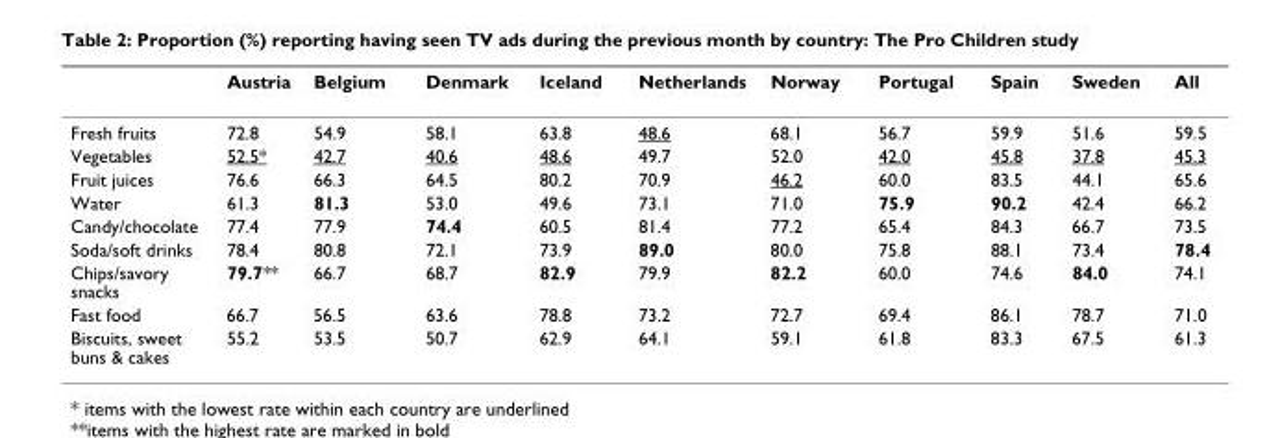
<table><thead><tr><td></td><td>Austria</td><td>Belgium</td><td>Denmark</td><td>Iceland</td><td>Netherlands</td><td>Norway</td><td>Portugal</td><td>Spain</td><td>Sweden</td><td>All</td></tr></thead><tbody><tr><td>Fresh fruits</td><td>72.8</td><td>54.9</td><td>58.1</td><td>63.8</td><td>48.6</td><td>68.1</td><td>56.7</td><td>59.9</td><td>51.6</td><td>59.5</td></tr><tr><td>Vegetables</td><td>52.5*</td><td>42.7</td><td>40.6</td><td>48.6</td><td>49.7</td><td>52.0</td><td>42.0</td><td>45.8</td><td>37.8</td><td>45.3</td></tr><tr><td>Fruit juices</td><td>76.6</td><td>66.3</td><td>64.5</td><td>80.2</td><td>70.9</td><td>46.2</td><td>60.0</td><td>83.5</td><td>44.1</td><td>65.6</td></tr><tr><td>Water</td><td>61.3</td><td>81.3</td><td>53.0</td><td>49.6</td><td>73.1</td><td>71.0</td><td>75.9</td><td>90.2</td><td>42.4</td><td>66.2</td></tr><tr><td>Candy/chocolate</td><td>77.4</td><td>77.9</td><td>74.4</td><td>60.5</td><td>81.4</td><td>77.2</td><td>65.4</td><td>84.3</td><td>66.7</td><td>73.5</td></tr><tr><td>Soda/soft drinks</td><td>78.4</td><td>80.8</td><td>72.1</td><td>73.9</td><td>89.0</td><td>80.0</td><td>75.8</td><td>88.1</td><td>73.4</td><td>78.4</td></tr><tr><td>Chips/savory snacks</td><td>79.7**</td><td>66.7</td><td>68.7</td><td>82.9</td><td>79.9</td><td>82.2</td><td>60.0</td><td>74.6</td><td>84.0</td><td>74.1</td></tr><tr><td>Fast food</td><td>66.7</td><td>56.5</td><td>63.6</td><td>78.8</td><td>73.2</td><td>72.7</td><td>69.4</td><td>86.1</td><td>78.7</td><td>71.0</td></tr><tr><td>Biscuits, sweet buns &amp; cakes</td><td>55.2</td><td>53.5</td><td>50.7</td><td>62.9</td><td>64.1</td><td>59.1</td><td>61.8</td><td>83.3</td><td>67.5</td><td>61.3</td></tr></tbody></table>